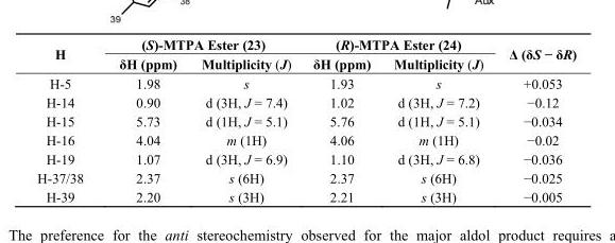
<table><thead><tr><td rowspan="2">H</td><td colspan="2">(S)-MTPA Ester (23)</td><td colspan="2">(R)-MTPA Ester (24)</td><td rowspan="2">Δ (δS − δR)</td></tr><tr><td>δH (ppm)</td><td>Multiplicity (J)</td><td>δH (ppm)</td><td>Multiplicity (J)</td></tr></thead><tbody><tr><td>H-5</td><td>1.98</td><td>s</td><td>1.93</td><td>s</td><td>+0.053</td></tr><tr><td>H-14</td><td>0.90</td><td>d (3H, J = 7.4)</td><td>1.02</td><td>d (3H, J = 7.2)</td><td>−0.12</td></tr><tr><td>H-15</td><td>5.73</td><td>d (1H, J = 5.1)</td><td>5.76</td><td>d (1H, J = 5.1)</td><td>−0.034</td></tr><tr><td>H-16</td><td>4.04</td><td>m (1H)</td><td>4.06</td><td>m (1H)</td><td>−0.02</td></tr><tr><td>H-19</td><td>1.07</td><td>d (3H, J = 6.9)</td><td>1.10</td><td>d (3H, J = 6.8)</td><td>−0.036</td></tr><tr><td>H-37/38</td><td>2.37</td><td>s (6H)</td><td>2.37</td><td>s (6H)</td><td>−0.025</td></tr><tr><td>H-39</td><td>2.20</td><td>s (3H)</td><td>2.21</td><td>s (3H)</td><td>−0.005</td></tr></tbody></table>